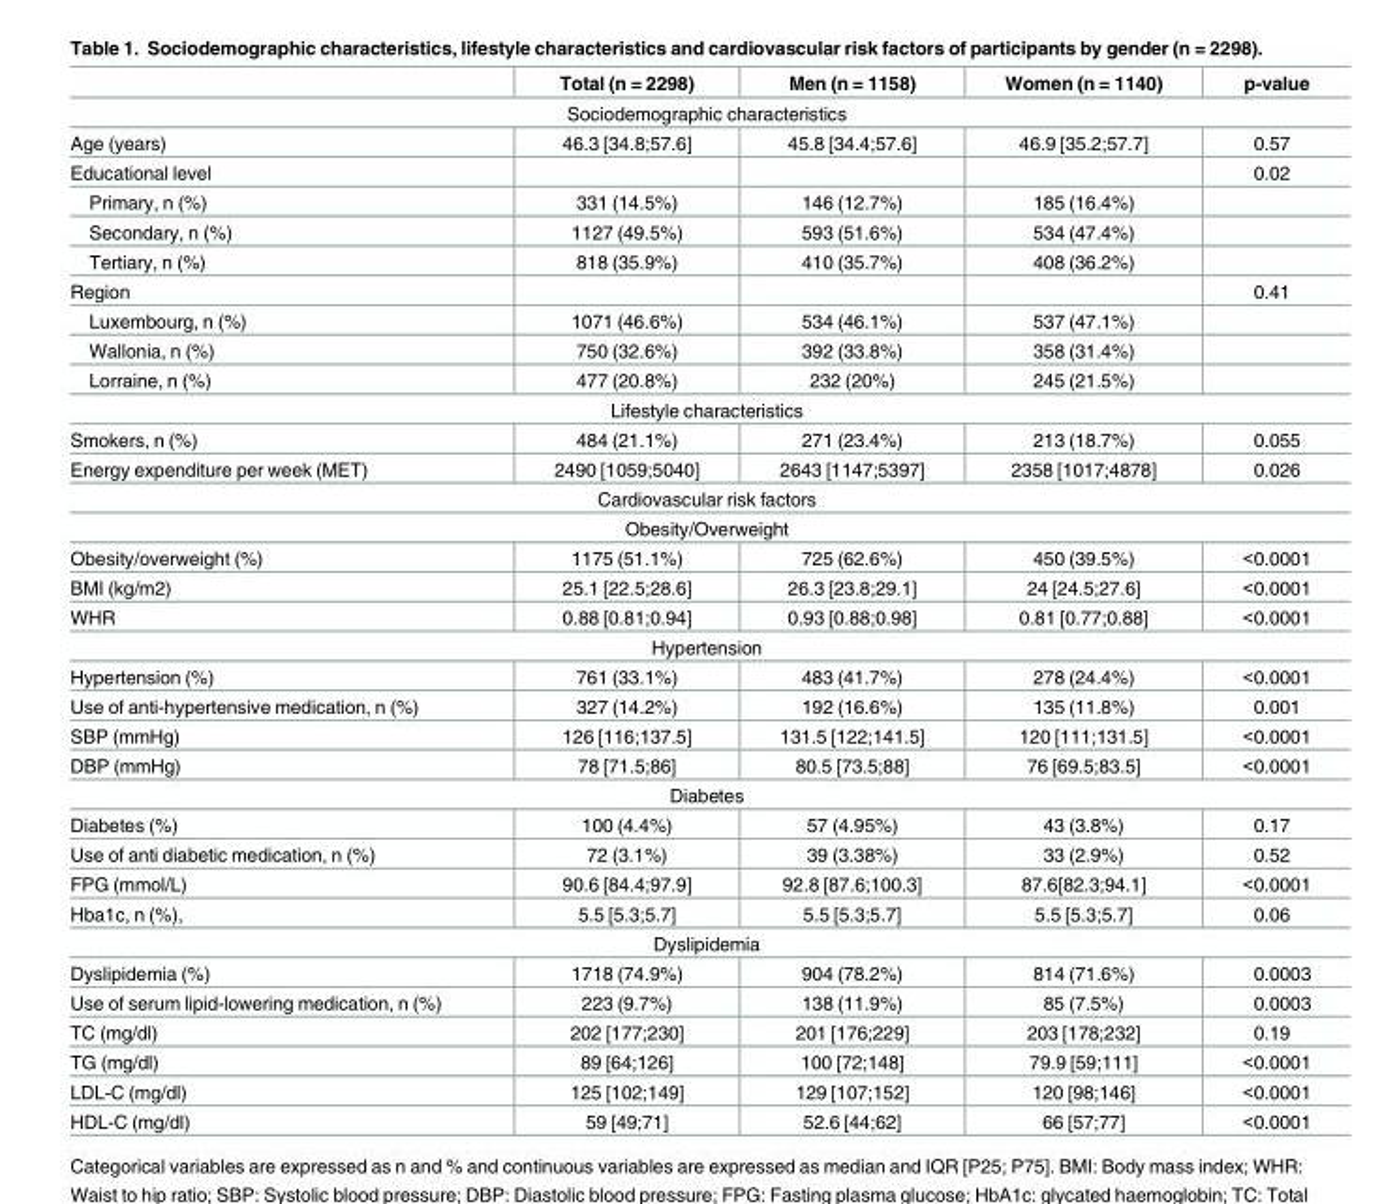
<table><thead><tr><td></td><td>Total (n = 2298)</td><td>Men (n = 1158)</td><td>Women (n = 1140)</td><td>p-value</td></tr></thead><tbody><tr><td colspan="5">Sociodemographic characteristics</td></tr><tr><td>Age (years)</td><td>46.3 [34.8;57.6]</td><td>45.8 [34.4;57.6]</td><td>46.9 [35.2;57.7]</td><td>0.57</td></tr><tr><td>Educational level</td><td></td><td></td><td></td><td>0.02</td></tr><tr><td>Primary, n (%)</td><td>331 (14.5%)</td><td>146 (12.7%)</td><td>185 (16.4%)</td><td></td></tr><tr><td>Secondary, n (%)</td><td>1127 (49.5%)</td><td>593 (51.6%)</td><td>534 (47.4%)</td><td></td></tr><tr><td>Tertiary, n (%)</td><td>818 (35.9%)</td><td>410 (35.7%)</td><td>408 (36.2%)</td><td></td></tr><tr><td>Region</td><td></td><td></td><td></td><td>0.41</td></tr><tr><td>Luxembourg, n (%)</td><td>1071 (46.6%)</td><td>534 (46.1%)</td><td>537 (47.1%)</td><td></td></tr><tr><td>Wallonia, n (%)</td><td>750 (32.6%)</td><td>392 (33.8%)</td><td>358 (31.4%)</td><td></td></tr><tr><td>Lorraine, n (%)</td><td>477 (20.8%)</td><td>232 (20%)</td><td>245 (21.5%)</td><td></td></tr><tr><td colspan="5">Lifestyle characteristics</td></tr><tr><td>Smokers, n (%)</td><td>484 (21.1%)</td><td>271 (23.4%)</td><td>213 (18.7%)</td><td>0.055</td></tr><tr><td>Energy expenditure per week (MET)</td><td>2490 [1059;5040]</td><td>2643 [1147;5397]</td><td>2358 [1017;4878]</td><td>0.026</td></tr><tr><td colspan="5">Cardiovascular risk factors</td></tr><tr><td colspan="5">Obesity/Overweight</td></tr><tr><td>Obesity/overweight (%)</td><td>1175 (51.1%)</td><td>725 (62.6%)</td><td>450 (39.5%)</td><td>&lt;0.0001</td></tr><tr><td>BMI (kg/m2)</td><td>25.1 [22.5;28.6]</td><td>26.3 [23.8;29.1]</td><td>24 [24.5;27.6]</td><td>&lt;0.0001</td></tr><tr><td>WHR</td><td>0.88 [0.81;0.94]</td><td>0.93 [0.88;0.98]</td><td>0.81 [0.77;0.88]</td><td>&lt;0.0001</td></tr><tr><td colspan="5">Hypertension</td></tr><tr><td>Hypertension (%)</td><td>761 (33.1%)</td><td>483 (41.7%)</td><td>278 (24.4%)</td><td>&lt;0.0001</td></tr><tr><td>Use of anti-hypertensive medication, n (%)</td><td>327 (14.2%)</td><td>192 (16.6%)</td><td>135 (11.8%)</td><td>0.001</td></tr><tr><td>SBP (mmHg)</td><td>126 [116;137.5]</td><td>131.5 [122;141.5]</td><td>120 [111;131.5]</td><td>&lt;0.0001</td></tr><tr><td>DBP (mmHg)</td><td>78 [71.5;86]</td><td>80.5 [73.5;88]</td><td>76 [69.5;83.5]</td><td>&lt;0.0001</td></tr><tr><td colspan="5">Diabetes</td></tr><tr><td>Diabetes (%)</td><td>100 (4.4%)</td><td>57 (4.95%)</td><td>43 (3.8%)</td><td>0.17</td></tr><tr><td>Use of anti diabetic medication, n (%)</td><td>72 (3.1%)</td><td>39 (3.38%)</td><td>33 (2.9%)</td><td>0.52</td></tr><tr><td>FPG (mmol/L)</td><td>90.6 [84.4;97.9]</td><td>92.8 [87.6;100.3]</td><td>87.6[82.3;94.1]</td><td>&lt;0.0001</td></tr><tr><td>Hba1c, n (%),</td><td>5.5 [5.3;5.7]</td><td>5.5 [5.3;5.7]</td><td>5.5 [5.3;5.7]</td><td>0.06</td></tr><tr><td colspan="5">Dyslipidemia</td></tr><tr><td>Dyslipidemia (%)</td><td>1718 (74.9%)</td><td>904 (78.2%)</td><td>814 (71.6%)</td><td>0.0003</td></tr><tr><td>Use of serum lipid-lowering medication, n (%)</td><td>223 (9.7%)</td><td>138 (11.9%)</td><td>85 (7.5%)</td><td>0.0003</td></tr><tr><td>TC (mg/dl)</td><td>202 [177;230]</td><td>201 [176;229]</td><td>203 [178;232]</td><td>0.19</td></tr><tr><td>TG (mg/dl)</td><td>89 [64;126]</td><td>100 [72;148]</td><td>79.9 [59;111]</td><td>&lt;0.0001</td></tr><tr><td>LDL-C (mg/dl)</td><td>125 [102;149]</td><td>129 [107;152]</td><td>120 [98;146]</td><td>&lt;0.0001</td></tr><tr><td>HDL-C (mg/dl)</td><td>59 [49;71]</td><td>52.6 [44;62]</td><td>66 [57;77]</td><td>&lt;0.0001</td></tr></tbody></table>